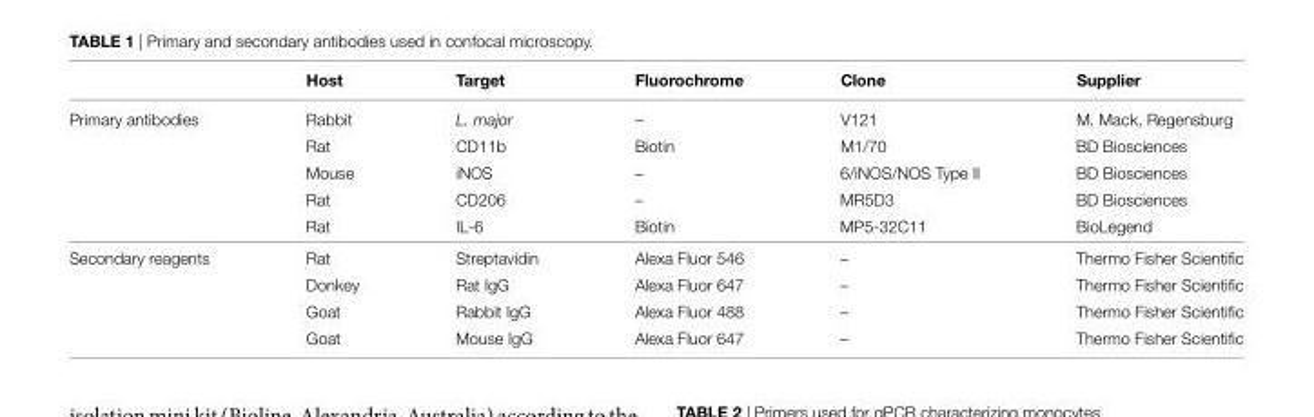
<table><thead><tr><td></td><td>host</td><td>Target</td><td>Fluorochrome</td><td>clone</td><td>supplier</td></tr></thead><tbody><tr><td rowspan="5">Primary antibodies</td><td>Rabbit</td><td>L. major</td><td>–</td><td>V121</td><td>M. Mack, Regensburg</td></tr><tr><td>Rat</td><td>CD11b</td><td>Biotin</td><td>M1/70</td><td>BD Biosciences</td></tr><tr><td>Mouse</td><td>iNOS</td><td>–</td><td>6/iNOS/NOS Type II</td><td>BD Biosciences</td></tr><tr><td>Rat</td><td>CD206</td><td>–</td><td>MR5D3</td><td>BD Biosciences</td></tr><tr><td>Rat</td><td>IL-6</td><td>Biotin</td><td>MP5-32C11</td><td>BioLegend</td></tr><tr><td rowspan="4">Secondary reagents</td><td>Rat</td><td>Streptavidin</td><td>Alexa Fluor 546</td><td>–</td><td>Thermo Fisher Scientific</td></tr><tr><td>Donkey</td><td>Rat IgG</td><td>Alexa Fluor 647</td><td>–</td><td>Thermo Fisher Scientific</td></tr><tr><td>Goat</td><td>Rabbit IgG</td><td>Alexa Fluor 488</td><td>–</td><td>Thermo Fisher Scientific</td></tr><tr><td>Goat</td><td>Mouse IgG</td><td>Alexa Fluor 647</td><td>–</td><td>Thermo Fisher Scientific</td></tr></tbody></table>